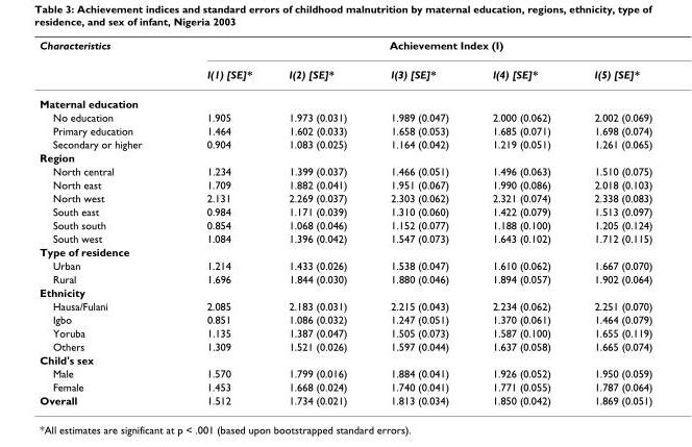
<table><thead><tr><td rowspan="2">Characteristics</td><td colspan="5">Achievement Index (I)</td></tr><tr><td>I(1) [SE]*</td><td>I(2) [SE]*</td><td>I(3) [SE]*</td><td>I(4) [SE]*</td><td>I(5) [SE]*</td></tr></thead><tbody><tr><td colspan="6">Maternal education</td></tr><tr><td>No education</td><td>1.905</td><td>1.973 (0.031)</td><td>1.989 (0.047)</td><td>2.000 (0.062)</td><td>2.002 (0.069)</td></tr><tr><td>Primary education</td><td>1.464</td><td>1.602 (0.033)</td><td>1.658 (0.053)</td><td>1.685 (0.071)</td><td>1.698 (0.074)</td></tr><tr><td>Secondary or higher</td><td>0.904</td><td>1.083 (0.025)</td><td>1.164 (0.042)</td><td>1.219 (0.051)</td><td>1.261 (0.065)</td></tr><tr><td colspan="6">Region</td></tr><tr><td>North central</td><td>1.234</td><td>1.399 (0.037)</td><td>1.466 (0.051)</td><td>1.496 (0.063)</td><td>1.510 (0.075)</td></tr><tr><td>North east</td><td>1.709</td><td>1.882 (0.041)</td><td>1.951 (0.067)</td><td>1.990 (0.086)</td><td>2.018 (0.103)</td></tr><tr><td>North west</td><td>2.131</td><td>2.269 (0.037)</td><td>2.303 (0.062)</td><td>2.321 (0.074)</td><td>2.338 (0.083)</td></tr><tr><td>South east</td><td>0.984</td><td>1.171 (0.039)</td><td>1.310 (0.060)</td><td>1.422 (0.079)</td><td>1.513 (0.097)</td></tr><tr><td>South south</td><td>0.854</td><td>1.068 (0.046)</td><td>1.152 (0.077)</td><td>1.188 (0.100)</td><td>1.205 (0.124)</td></tr><tr><td>South west</td><td>1.084</td><td>1.396 (0.042)</td><td>1.547 (0.073)</td><td>1.643 (0.102)</td><td>1.712 (0.115)</td></tr><tr><td colspan="6">Type of residence</td></tr><tr><td>Urban</td><td>1.214</td><td>1.433 (0.026)</td><td>1.538 (0.047)</td><td>1.610 (0.062)</td><td>1.667 (0.070)</td></tr><tr><td>Rural</td><td>1.696</td><td>1.844 (0.030)</td><td>1.880 (0.046)</td><td>1.894 (0.057)</td><td>1.902 (0.064)</td></tr><tr><td colspan="6">Ethnicity</td></tr><tr><td>Hausa/Fulani</td><td>2.085</td><td>2.183 (0.031)</td><td>2.215 (0.043)</td><td>2.234 (0.062)</td><td>2.251 (0.070)</td></tr><tr><td>Igbo</td><td>0.851</td><td>1.086 (0.032)</td><td>1.247 (0.051)</td><td>1.370 (0.061)</td><td>1.464 (0.079)</td></tr><tr><td>Yoruba</td><td>1.135</td><td>1.387 (0.047)</td><td>1.505 (0.073)</td><td>1.587 (0.100)</td><td>1.655 (0.119)</td></tr><tr><td>Others</td><td>1.309</td><td>1.521 (0.026)</td><td>1.597 (0.044)</td><td>1.637 (0.058)</td><td>1.665 (0.074)</td></tr><tr><td colspan="6">Child&#x27;s sex</td></tr><tr><td>Male</td><td>1.570</td><td>1.799 (0.016)</td><td>1.884 (0.041)</td><td>1.926 (0.052)</td><td>1.950 (0.059)</td></tr><tr><td>Female</td><td>1.453</td><td>1.668 (0.024)</td><td>1.740 (0.041)</td><td>1.771 (0.055)</td><td>1.787 (0.064)</td></tr><tr><td>Overall</td><td>1.512</td><td>1.734 (0.021)</td><td>1.813 (0.034)</td><td>1.850 (0.042)</td><td>1.869 (0.051)</td></tr></tbody></table>